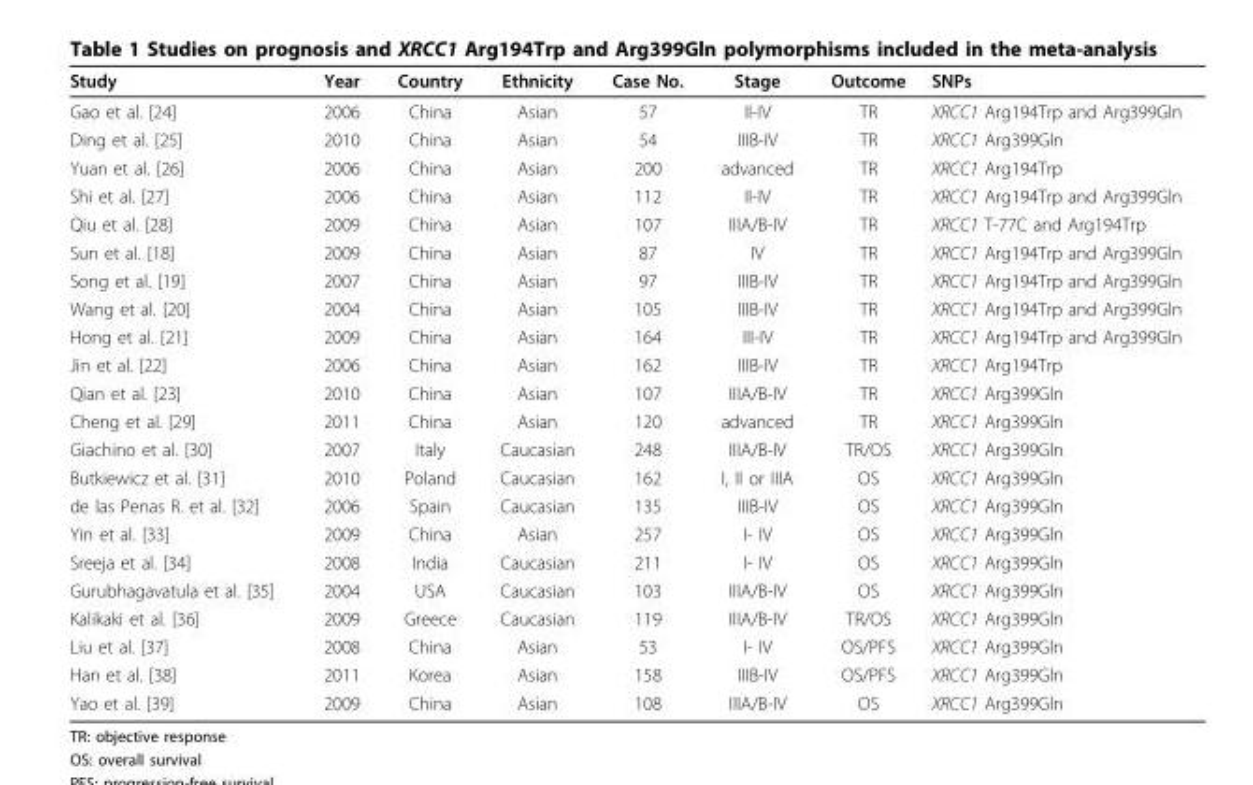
<table><thead><tr><td>Study</td><td>Year</td><td>Country</td><td>Ethnicity</td><td>Case No.</td><td>Stage</td><td>Outcome</td><td>SNPs</td></tr></thead><tbody><tr><td>Gao et al. [24]</td><td>2006</td><td>China</td><td>Asian</td><td>57</td><td>II-IV</td><td>TR</td><td>XRCC1 Arg194Trp and Arg399Gln</td></tr><tr><td>Ding et al. [25]</td><td>2010</td><td>China</td><td>Asian</td><td>54</td><td>IIIB-IV</td><td>TR</td><td>XRCC1 Arg399Gln</td></tr><tr><td>Yuan et al. [26]</td><td>2006</td><td>China</td><td>Asian</td><td>200</td><td>advanced</td><td>TR</td><td>XRCC1 Arg194Trp</td></tr><tr><td>Shi et al. [27]</td><td>2006</td><td>China</td><td>Asian</td><td>112</td><td>II-IV</td><td>TR</td><td>XRCC1 Arg194Trp and Arg399Gln</td></tr><tr><td>Qiu et al. [28]</td><td>2009</td><td>China</td><td>Asian</td><td>107</td><td>IIIA/B-IV</td><td>TR</td><td>XRCC1 T-77C and Arg194Trp</td></tr><tr><td>Sun et al. [18]</td><td>2009</td><td>China</td><td>Asian</td><td>87</td><td>IV</td><td>TR</td><td>XRCC1 Arg194Trp and Arg399Gln</td></tr><tr><td>Song et al. [19]</td><td>2007</td><td>China</td><td>Asian</td><td>97</td><td>IIIB-IV</td><td>TR</td><td>XRCC1 Arg194Trp and Arg399Gln</td></tr><tr><td>Wang et al. [20]</td><td>2004</td><td>China</td><td>Asian</td><td>105</td><td>IIIB-IV</td><td>TR</td><td>XRCC1 Arg194Trp and Arg399Gln</td></tr><tr><td>Hong et al. [21]</td><td>2009</td><td>China</td><td>Asian</td><td>164</td><td>III-IV</td><td>TR</td><td>XRCC1 Arg194Trp and Arg399Gln</td></tr><tr><td>Jin et al. [22]</td><td>2006</td><td>China</td><td>Asian</td><td>162</td><td>IIIB-IV</td><td>TR</td><td>XRCC1 Arg194Trp</td></tr><tr><td>Qian et al. [23]</td><td>2010</td><td>China</td><td>Asian</td><td>107</td><td>IIIA/B-IV</td><td>TR</td><td>XRCC1 Arg399Gln</td></tr><tr><td>Cheng et al. [29]</td><td>2011</td><td>China</td><td>Asian</td><td>120</td><td>advanced</td><td>TR</td><td>XRCC1 Arg399Gln</td></tr><tr><td>Giachino et al. [30]</td><td>2007</td><td>Italy</td><td>Caucasian</td><td>248</td><td>IIIA/B-IV</td><td>TR/OS</td><td>XRCC1 Arg399Gln</td></tr><tr><td>Butkiewicz et al. [31]</td><td>2010</td><td>Poland</td><td>Caucasian</td><td>162</td><td>I, II or IIIA</td><td>OS</td><td>XRCC1 Arg399Gln</td></tr><tr><td>de las Penas R. et al. [32]</td><td>2006</td><td>Spain</td><td>Caucasian</td><td>135</td><td>IIIB-IV</td><td>OS</td><td>XRCC1 Arg399Gln</td></tr><tr><td>Yin et al. [33]</td><td>2009</td><td>China</td><td>Asian</td><td>257</td><td>I- IV</td><td>OS</td><td>XRCC1 Arg399Gln</td></tr><tr><td>Sreeja et al. [34]</td><td>2008</td><td>India</td><td>Caucasian</td><td>211</td><td>I- IV</td><td>OS</td><td>XRCC1 Arg399Gln</td></tr><tr><td>Gurubhagavatula et al. [35]</td><td>2004</td><td>USA</td><td>Caucasian</td><td>103</td><td>IIIA/B-IV</td><td>OS</td><td>XRCC1 Arg399Gln</td></tr><tr><td>Kalikaki et al. [36]</td><td>2009</td><td>Greece</td><td>Caucasian</td><td>119</td><td>IIIA/B-IV</td><td>TR/OS</td><td>XRCC1 Arg399Gln</td></tr><tr><td>Liu et al. [37]</td><td>2008</td><td>China</td><td>Asian</td><td>53</td><td>I- IV</td><td>OS/PFS</td><td>XRCC1 Arg399Gln</td></tr><tr><td>Han et al. [38]</td><td>2011</td><td>Korea</td><td>Asian</td><td>158</td><td>IIIB-IV</td><td>OS/PFS</td><td>XRCC1 Arg399Gln</td></tr><tr><td>Yao et al. [39]</td><td>2009</td><td>China</td><td>Asian</td><td>108</td><td>IIIA/B-IV</td><td>OS</td><td>XRCC1 Arg399Gln</td></tr></tbody></table>